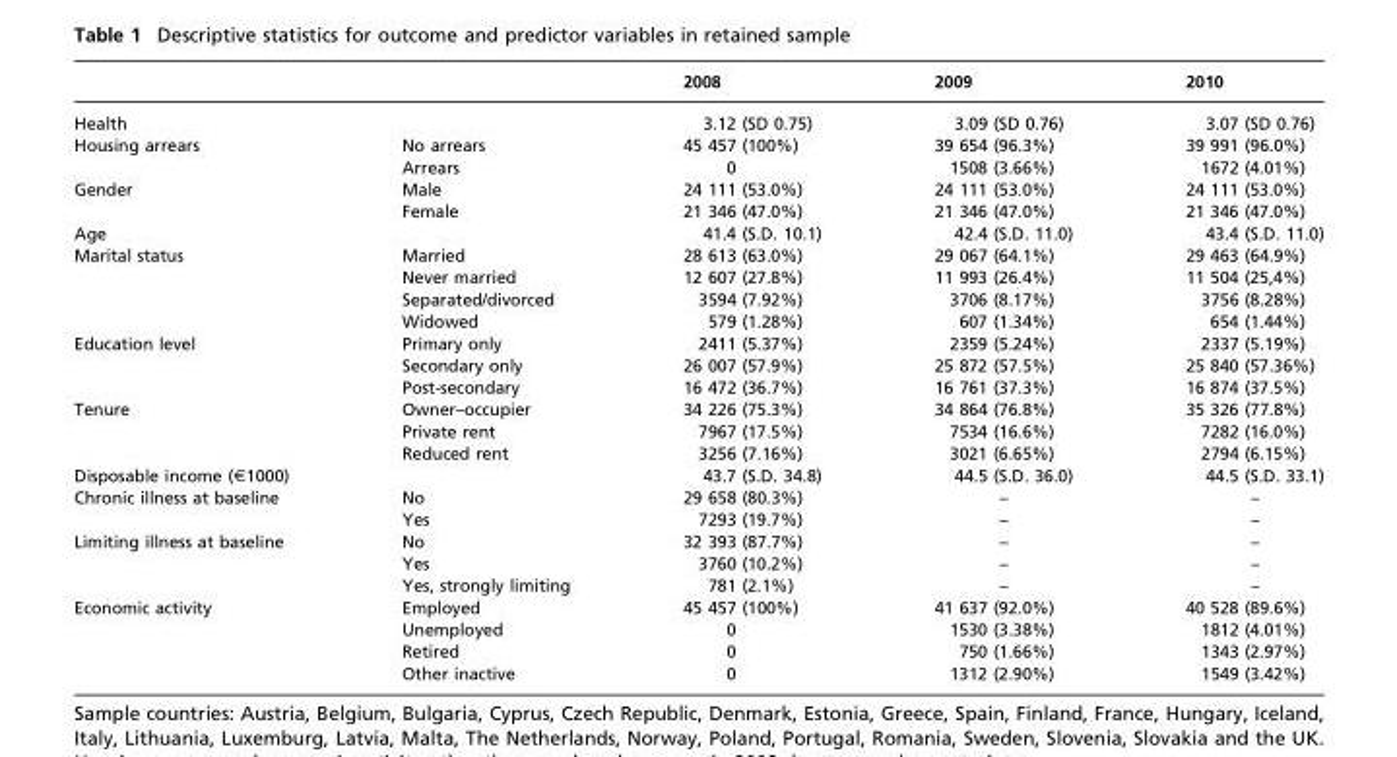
<table><thead><tr><td></td><td></td><td>2008</td><td>2009</td><td>2010</td></tr></thead><tbody><tr><td>Health</td><td></td><td>3.12 (SD 0.75)</td><td>3.09 (SD 0.76)</td><td>3.07 (SD 0.76)</td></tr><tr><td rowspan="2">Housing arrears</td><td>No arrears</td><td>45 457 (100%)</td><td>39 654 (96.3%)</td><td>39 991 (96.0%)</td></tr><tr><td>Arrears</td><td>0</td><td>1508 (3.66%)</td><td>1672 (4.01%)</td></tr><tr><td rowspan="2">Gender</td><td>Male</td><td>24 111 (53.0%)</td><td>24 111 (53.0%)</td><td>24 111 (53.0%)</td></tr><tr><td>Female</td><td>21 346 (47.0%)</td><td>21 346 (47.0%)</td><td>21 346 (47.0%)</td></tr><tr><td>Age</td><td></td><td>41.4 (S.D. 10.1)</td><td>42.4 (S.D. 11.0)</td><td>43.4 (S.D. 11.0)</td></tr><tr><td rowspan="4">Marital status</td><td>Married</td><td>28 613 (63.0%)</td><td>29 067 (64.1%)</td><td>29 463 (64.9%)</td></tr><tr><td>Never married</td><td>12 607 (27.8%)</td><td>11 993 (26.4%)</td><td>11 504 (25,4%)</td></tr><tr><td>Separated/divorced</td><td>3594 (7.92%)</td><td>3706 (8.17%)</td><td>3756 (8.28%)</td></tr><tr><td>Widowed</td><td>579 (1.28%)</td><td>607 (1.34%)</td><td>654 (1.44%)</td></tr><tr><td rowspan="3">Education level</td><td>Primary only</td><td>2411 (5.37%)</td><td>2359 (5.24%)</td><td>2337 (5.19%)</td></tr><tr><td>Secondary only</td><td>26 007 (57.9%)</td><td>25 872 (57.5%)</td><td>25 840 (57.36%)</td></tr><tr><td>Post-secondary</td><td>16 472 (36.7%)</td><td>16 761 (37.3%)</td><td>16 874 (37.5%)</td></tr><tr><td rowspan="3">Tenure</td><td>Owner–occupier</td><td>34 226 (75.3%)</td><td>34 864 (76.8%)</td><td>35 326 (77.8%)</td></tr><tr><td>Private rent</td><td>7967 (17.5%)</td><td>7534 (16.6%)</td><td>7282 (16.0%)</td></tr><tr><td>Reduced rent</td><td>3256 (7.16%)</td><td>3021 (6.65%)</td><td>2794 (6.15%)</td></tr><tr><td>Disposable income (€1000)</td><td></td><td>43.7 (S.D. 34.8)</td><td>44.5 (S.D. 36.0)</td><td>44.5 (S.D. 33.1)</td></tr><tr><td rowspan="2">Chronic illness at baseline</td><td>No</td><td>29 658 (80.3%)</td><td>–</td><td>–</td></tr><tr><td>Yes</td><td>7293 (19.7%)</td><td>–</td><td>–</td></tr><tr><td rowspan="3">Limiting illness at baseline</td><td>No</td><td>32 393 (87.7%)</td><td>–</td><td>–</td></tr><tr><td>Yes</td><td>3760 (10.2%)</td><td>–</td><td>–</td></tr><tr><td>Yes, strongly limiting</td><td>781 (2.1%)</td><td>–</td><td>–</td></tr><tr><td rowspan="4">Economic activity</td><td>Employed</td><td>45 457 (100%)</td><td>41 637 (92.0%)</td><td>40 528 (89.6%)</td></tr><tr><td>Unemployed</td><td>0</td><td>1530 (3.38%)</td><td>1812 (4.01%)</td></tr><tr><td>Retired</td><td>0</td><td>750 (1.66%)</td><td>1343 (2.97%)</td></tr><tr><td>Other inactive</td><td>0</td><td>1312 (2.90%)</td><td>1549 (3.42%)</td></tr></tbody></table>